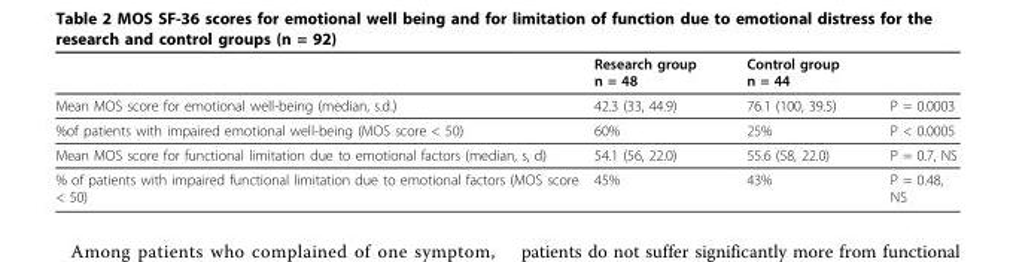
<table><thead><tr><td></td><td>Research group n = 48</td><td>Control group n = 44</td><td></td></tr></thead><tbody><tr><td>Mean MOS score for emotional well-being (median, s.d.)</td><td>42.3 (33, 44.9)</td><td>76.1 (100, 39.5)</td><td>P = 0.0003</td></tr><tr><td>%of patients with impaired emotional well-being (MOS score &lt; 50)</td><td>60%</td><td>25%</td><td>P &lt; 0.0005</td></tr><tr><td>Mean MOS score for functional limitation due to emotional factors (median, s, d)</td><td>54.1 (56, 22.0)</td><td>55.6 (58, 22.0)</td><td>P = 0.7, NS</td></tr><tr><td>% of patients with impaired functional limitation due to emotional factors (MOS score &lt; 50)</td><td>45%</td><td>43%</td><td>P = 0.48, NS</td></tr></tbody></table>